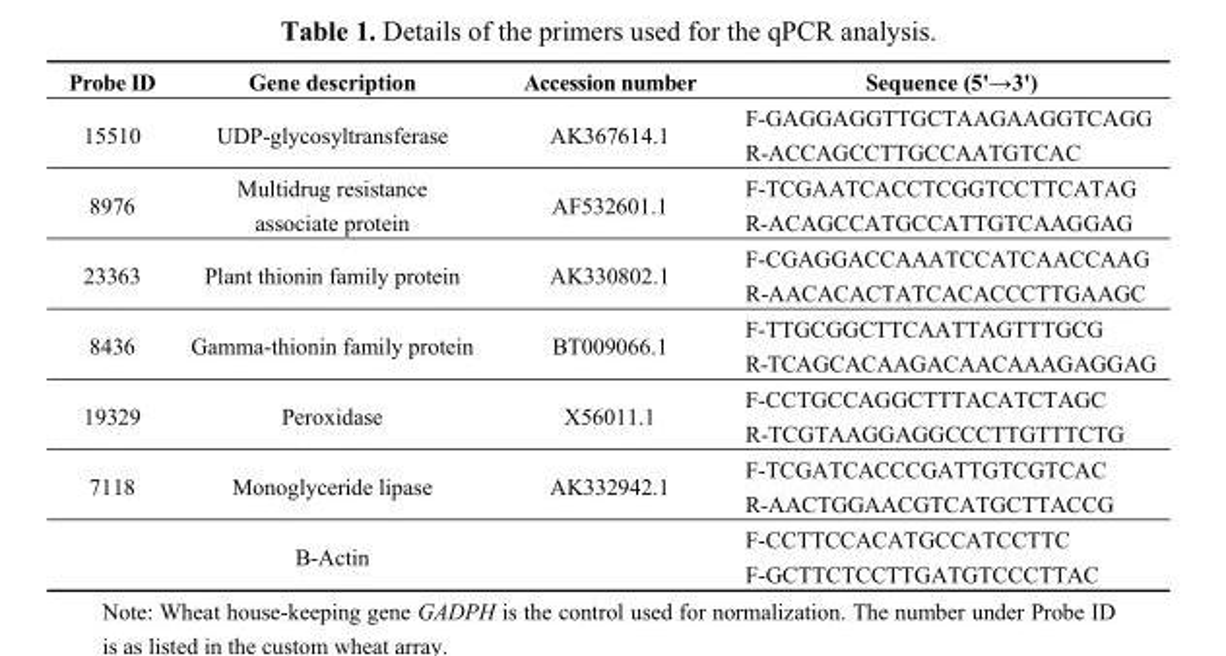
<table><thead><tr><td>Probe ID</td><td>Gene description</td><td>Accession number</td><td>Sequence (5&#x27;→3&#x27;)</td></tr></thead><tbody><tr><td rowspan="2">15510</td><td rowspan="2">UDP-glycosyltransferase</td><td rowspan="2">AK367614.1</td><td>F-GAGGAGGTTGCTAAGAAGGTCAGG</td></tr><tr><td>R-ACCAGCCTTGCCAATGTCAC</td></tr><tr><td rowspan="2">8976</td><td rowspan="2">Multidrug resistance associate protein</td><td rowspan="2">AF532601.1</td><td>F-TCGAATCACCTCGGTCCTTCATAG</td></tr><tr><td>R-ACAGCCATGCCATTGTCAAGGAG</td></tr><tr><td rowspan="2">23363</td><td rowspan="2">Plant thionin family protein</td><td rowspan="2">AK330802.1</td><td>F-CGAGGACCAAATCCATCAACCAAG</td></tr><tr><td>R-AACACACTATCACACCCTTGAAGC</td></tr><tr><td rowspan="2">8436</td><td rowspan="2">Gamma-thionin family protein</td><td rowspan="2">BT009066.1</td><td>F-TTGCGGCTTCAATTAGTTTGCG</td></tr><tr><td>R-TCAGCACAAGACAACAAAGAGGAG</td></tr><tr><td rowspan="2">19329</td><td rowspan="2">Peroxidase</td><td rowspan="2">X56011.1</td><td>F-CCTGCCAGGCTTTACATCTAGC</td></tr><tr><td>R-TCGTAAGGAGGCCCTTGTTTCTG</td></tr><tr><td rowspan="4">7118</td><td rowspan="2">Monoglyceride lipase</td><td rowspan="2">AK332942.1</td><td>F-TCGATCACCCGATTGTCGTCAC</td></tr><tr><td>R-AACTGGAACGTCATGCTTACCG</td></tr><tr><td rowspan="2">Β-Actin</td><td rowspan="2"></td><td>F-CCTTCCACATGCCATCCTTC</td></tr><tr><td>F-GCTTCTCCTTGATGTCCCTTAC</td></tr></tbody></table>